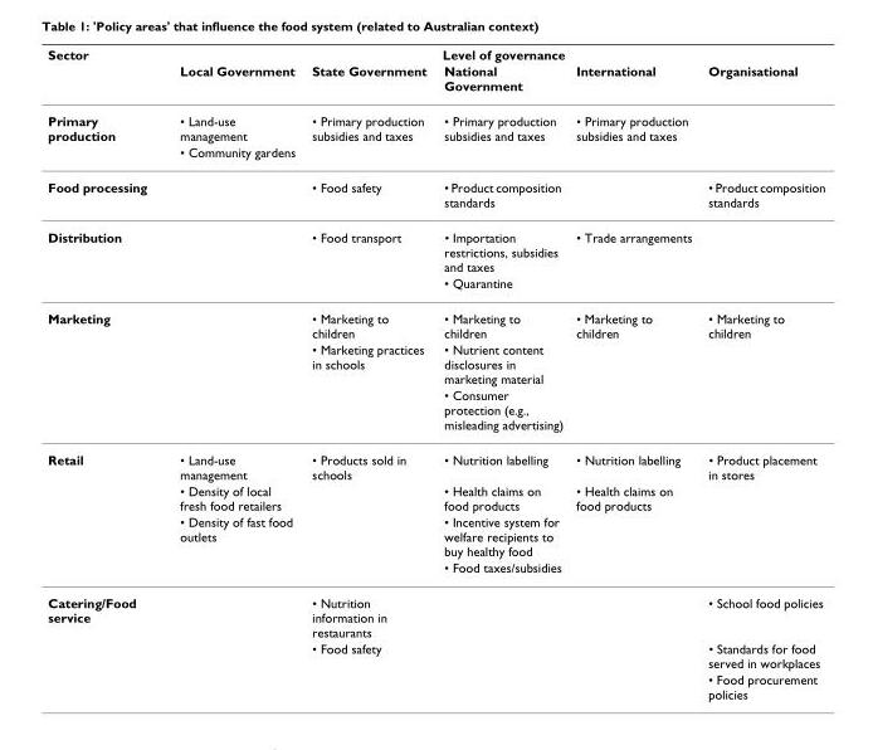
<table><thead><tr><td rowspan="2">Sector</td><td colspan="5">Level of governance</td></tr><tr><td>Local Government</td><td>State Government</td><td>National Government</td><td>International</td><td>Organisational</td></tr></thead><tbody><tr><td rowspan="2">Primary production</td><td>• Land-use management</td><td>• Primary production subsidies and taxes</td><td>• Primary production subsidies and taxes</td><td>• Primary production subsidies and taxes</td><td></td></tr><tr><td>• Community gardens</td><td></td><td></td><td></td><td></td></tr><tr><td>Food processing</td><td></td><td>• Food safety</td><td>• Product composition standards</td><td></td><td>• Product composition standards</td></tr><tr><td rowspan="2">Distribution</td><td></td><td>• Food transport</td><td>• Importation restrictions, subsidies and taxes</td><td>• Trade arrangements</td><td></td></tr><tr><td></td><td></td><td>• Quarantine</td><td></td><td></td></tr><tr><td rowspan="3">Marketing</td><td></td><td>• Marketing to children</td><td>• Marketing to children</td><td>• Marketing to children</td><td>• Marketing to children</td></tr><tr><td></td><td>• Marketing practices in schools</td><td>• Nutrient content disclosures in marketing material</td><td></td><td></td></tr><tr><td></td><td></td><td>• Consumer protection (e.g., misleading advertising)</td><td></td><td></td></tr><tr><td rowspan="4">Retail</td><td>• Land-use management</td><td>• Products sold in schools</td><td>• Nutrition labelling</td><td>• Nutrition labelling</td><td>• Product placement in stores</td></tr><tr><td>• Density of local fresh food retailers</td><td></td><td>• Health claims on food products</td><td>• Health claims on food products</td><td></td></tr><tr><td>• Density of fast food outlets</td><td></td><td>• Incentive system for welfare recipients to buy healthy food</td><td></td><td></td></tr><tr><td></td><td></td><td>• Food taxes/subsidies</td><td></td><td></td></tr><tr><td rowspan="3">Catering/Food service</td><td></td><td>• Nutrition information in restaurants</td><td></td><td></td><td>• School food policies</td></tr><tr><td></td><td>• Food safety</td><td></td><td></td><td>• Standards for food served in workplaces</td></tr><tr><td></td><td></td><td></td><td></td><td>• Food procurement policies</td></tr></tbody></table>